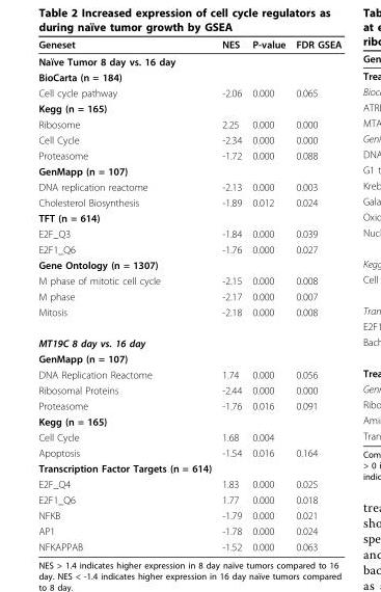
<table><thead><tr><td>Geneset</td><td>NES</td><td>P-value</td><td>FDR GSEA</td></tr></thead><tbody><tr><td colspan="4">Naïve Tumor 8 day vs. 16 day</td></tr><tr><td colspan="4">BioCarta (n = 184)</td></tr><tr><td>Cell cycle pathway</td><td>-2.06</td><td>0.000</td><td>0.065</td></tr><tr><td colspan="4">Kegg (n = 165)</td></tr><tr><td>Ribosome</td><td>2.25</td><td>0.000</td><td>0.000</td></tr><tr><td>Cell Cycle</td><td>-2.34</td><td>0.000</td><td>0.000</td></tr><tr><td>Proteasome</td><td>-1.72</td><td>0.000</td><td>0.088</td></tr><tr><td colspan="4">GenMapp (n = 107)</td></tr><tr><td>DNA replication reactome</td><td>-2.13</td><td>0.000</td><td>0.003</td></tr><tr><td>Cholesterol Biosynthesis</td><td>-1.89</td><td>0.012</td><td>0.024</td></tr><tr><td colspan="4">TFT (n = 614)</td></tr><tr><td>E2F_Q3</td><td>-1.84</td><td>0.000</td><td>0.039</td></tr><tr><td>E2F1_Q6</td><td>-1.76</td><td>0.000</td><td>0.027</td></tr><tr><td colspan="4">Gene Ontology (n = 1307)</td></tr><tr><td>M phase of mitotic cell cycle</td><td>-2.15</td><td>0.000</td><td>0.008</td></tr><tr><td>M phase</td><td>-2.17</td><td>0.000</td><td>0.007</td></tr><tr><td>Mitosis</td><td>-2.18</td><td>0.000</td><td>0.008</td></tr><tr><td colspan="4">MT19C 8 day vs. 16 day</td></tr><tr><td colspan="4">GenMapp (n = 107)</td></tr><tr><td>DNA Replication Reactome</td><td>1.74</td><td>0.000</td><td>0.056</td></tr><tr><td>Ribosomal Proteins</td><td>-2.44</td><td>0.000</td><td>0.000</td></tr><tr><td>Proteasome</td><td>-1.76</td><td>0.016</td><td>0.091</td></tr><tr><td colspan="4">Kegg (n = 165)</td></tr><tr><td>Cell Cycle</td><td>1.68</td><td>0.004</td><td></td></tr><tr><td>Apoptosis</td><td>-1.54</td><td>0.016</td><td>0.164</td></tr><tr><td colspan="4">Transcription Factor Targets (n = 614)</td></tr><tr><td>E2F_Q4</td><td>1.83</td><td>0.000</td><td>0.025</td></tr><tr><td>E2F1_Q6</td><td>1.77</td><td>0.000</td><td>0.018</td></tr><tr><td>NFKB</td><td>-1.79</td><td>0.000</td><td>0.021</td></tr><tr><td>AP1</td><td>-1.78</td><td>0.000</td><td>0.024</td></tr><tr><td>NFKAPPAB</td><td>-1.52</td><td>0.000</td><td>0.063</td></tr></tbody></table>